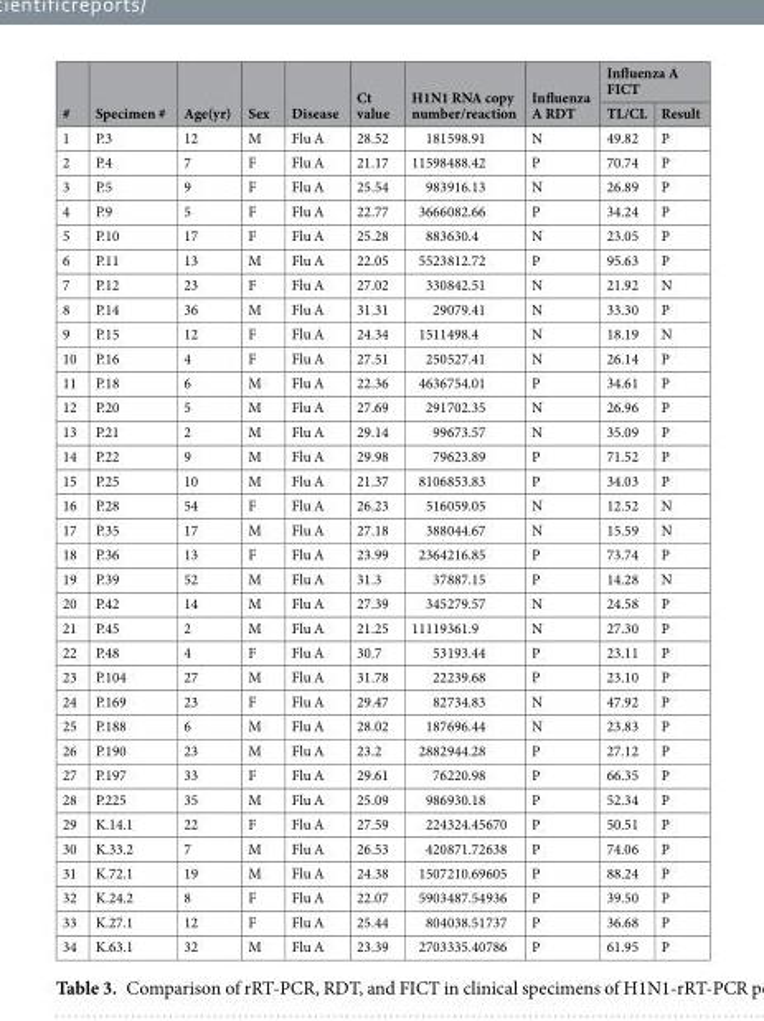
<table><thead><tr><td rowspan="2">#</td><td rowspan="2">Specimen #</td><td rowspan="2">Age(yr)</td><td rowspan="2">Sex</td><td rowspan="2">Disease</td><td rowspan="2">Ct value</td><td rowspan="2">H1N1 RNA copy number/reaction</td><td rowspan="2">Influenza A RDT</td><td colspan="2">Influenza A FICT</td></tr><tr><td>TL/CL</td><td>Result</td></tr></thead><tbody><tr><td>1</td><td>P.3</td><td>12</td><td>M</td><td>Flu A</td><td>28.52</td><td>181598.91</td><td>N</td><td>49.82</td><td>P</td></tr><tr><td>2</td><td>P.4</td><td>7</td><td>F</td><td>Flu A</td><td>21.17</td><td>11598488.42</td><td>P</td><td>70.74</td><td>P</td></tr><tr><td>3</td><td>P.5</td><td>9</td><td>F</td><td>Flu A</td><td>25.54</td><td>983916.13</td><td>N</td><td>26.89</td><td>P</td></tr><tr><td>4</td><td>P.9</td><td>5</td><td>F</td><td>Flu A</td><td>22.77</td><td>3666082.66</td><td>P</td><td>34.24</td><td>P</td></tr><tr><td>5</td><td>P.10</td><td>17</td><td>F</td><td>Flu A</td><td>25.28</td><td>883630.4</td><td>N</td><td>23.05</td><td>P</td></tr><tr><td>6</td><td>P.11</td><td>13</td><td>M</td><td>Flu A</td><td>22.05</td><td>5523812.72</td><td>P</td><td>95.63</td><td>P</td></tr><tr><td>7</td><td>P.12</td><td>23</td><td>F</td><td>Flu A</td><td>27.02</td><td>330842.51</td><td>N</td><td>21.92</td><td>N</td></tr><tr><td>8</td><td>P.14</td><td>36</td><td>M</td><td>Flu A</td><td>31.31</td><td>29079.41</td><td>N</td><td>33.30</td><td>P</td></tr><tr><td>9</td><td>P.15</td><td>12</td><td>F</td><td>Flu A</td><td>24.34</td><td>1511498.4</td><td>N</td><td>18.19</td><td>N</td></tr><tr><td>10</td><td>P.16</td><td>4</td><td>F</td><td>Flu A</td><td>27.51</td><td>250527.41</td><td>N</td><td>26.14</td><td>P</td></tr><tr><td>11</td><td>P.18</td><td>6</td><td>M</td><td>Flu A</td><td>22.36</td><td>4636754.01</td><td>P</td><td>34.61</td><td>P</td></tr><tr><td>12</td><td>P.20</td><td>5</td><td>M</td><td>Flu A</td><td>27.69</td><td>291702.35</td><td>N</td><td>26.96</td><td>P</td></tr><tr><td>13</td><td>P.21</td><td>2</td><td>M</td><td>Flu A</td><td>29.14</td><td>99673.57</td><td>N</td><td>35.09</td><td>P</td></tr><tr><td>14</td><td>P.22</td><td>9</td><td>M</td><td>Flu A</td><td>29.98</td><td>79623.89</td><td>P</td><td>71.52</td><td>P</td></tr><tr><td>15</td><td>P.25</td><td>10</td><td>M</td><td>Flu A</td><td>21.37</td><td>8106853.83</td><td>P</td><td>34.03</td><td>P</td></tr><tr><td>16</td><td>P.28</td><td>54</td><td>F</td><td>Flu A</td><td>26.23</td><td>516059.05</td><td>N</td><td>12.52</td><td>N</td></tr><tr><td>17</td><td>P.35</td><td>17</td><td>M</td><td>Flu A</td><td>27.18</td><td>388044.67</td><td>N</td><td>15.59</td><td>N</td></tr><tr><td>18</td><td>P.36</td><td>13</td><td>F</td><td>Flu A</td><td>23.99</td><td>2364216.85</td><td>P</td><td>73.74</td><td>P</td></tr><tr><td>19</td><td>P.39</td><td>52</td><td>M</td><td>Flu A</td><td>31.3</td><td>37887.15</td><td>P</td><td>14.28</td><td>N</td></tr><tr><td>20</td><td>P.42</td><td>14</td><td>M</td><td>Flu A</td><td>27.39</td><td>345279.57</td><td>N</td><td>24.58</td><td>P</td></tr><tr><td>21</td><td>P.45</td><td>2</td><td>M</td><td>Flu A</td><td>21.25</td><td>11119361.9</td><td>N</td><td>27.30</td><td>P</td></tr><tr><td>22</td><td>P.48</td><td>4</td><td>F</td><td>Flu A</td><td>30.7</td><td>53193.44</td><td>P</td><td>23.11</td><td>P</td></tr><tr><td>23</td><td>P.104</td><td>27</td><td>M</td><td>Flu A</td><td>31.78</td><td>22239.68</td><td>P</td><td>23.10</td><td>P</td></tr><tr><td>24</td><td>P.169</td><td>23</td><td>F</td><td>Flu A</td><td>29.47</td><td>82734.83</td><td>N</td><td>47.92</td><td>P</td></tr><tr><td>25</td><td>P.188</td><td>6</td><td>M</td><td>Flu A</td><td>28.02</td><td>187696.44</td><td>N</td><td>23.83</td><td>P</td></tr><tr><td>26</td><td>P.190</td><td>23</td><td>M</td><td>Flu A</td><td>23.2</td><td>2882944.28</td><td>P</td><td>27.12</td><td>P</td></tr><tr><td>27</td><td>P.197</td><td>33</td><td>F</td><td>Flu A</td><td>29.61</td><td>76220.98</td><td>P</td><td>66.35</td><td>P</td></tr><tr><td>28</td><td>P.225</td><td>35</td><td>M</td><td>Flu A</td><td>25.09</td><td>986930.18</td><td>P</td><td>52.34</td><td>P</td></tr><tr><td>29</td><td>K.14.1</td><td>22</td><td>F</td><td>Flu A</td><td>27.59</td><td>224324.45670</td><td>P</td><td>50.51</td><td>P</td></tr><tr><td>30</td><td>K.33.2</td><td>7</td><td>M</td><td>Flu A</td><td>26.53</td><td>420871.72638</td><td>P</td><td>74.06</td><td>P</td></tr><tr><td>31</td><td>K.72.1</td><td>19</td><td>M</td><td>Flu A</td><td>24.38</td><td>1507210.69605</td><td>P</td><td>88.24</td><td>P</td></tr><tr><td>32</td><td>K.24.2</td><td>8</td><td>F</td><td>Flu A</td><td>22.07</td><td>5903487.54936</td><td>P</td><td>39.50</td><td>P</td></tr><tr><td>33</td><td>K.27.1</td><td>12</td><td>F</td><td>Flu A</td><td>25.44</td><td>804038.51737</td><td>P</td><td>36.68</td><td>P</td></tr><tr><td>34</td><td>K.63.1</td><td>32</td><td>M</td><td>Flu A</td><td>23.39</td><td>2703335.40786</td><td>P</td><td>61.95</td><td>P</td></tr></tbody></table>